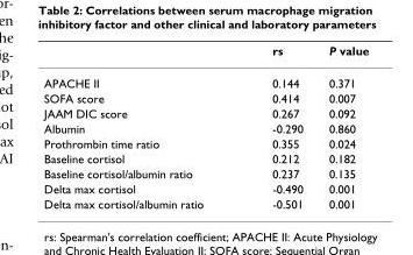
<table><thead><tr><td></td><td>rs</td><td>P value</td></tr></thead><tbody><tr><td>APACHE II</td><td>0.144</td><td>0.371</td></tr><tr><td>SOFA score</td><td>0.414</td><td>0.007</td></tr><tr><td>JAAM DIC score</td><td>0.267</td><td>0.092</td></tr><tr><td>Albumin</td><td>-0.290</td><td>0.860</td></tr><tr><td>Prothrombin time ratio</td><td>0.355</td><td>0.024</td></tr><tr><td>Baseline cortisol</td><td>0.212</td><td>0.182</td></tr><tr><td>Baseline cortisol/albumin ratio</td><td>0.237</td><td>0.135</td></tr><tr><td>Delta max cortisol</td><td>-0.490</td><td>0.001</td></tr><tr><td>Delta max cortisol/albumin ratio</td><td>-0.501</td><td>0.001</td></tr></tbody></table>